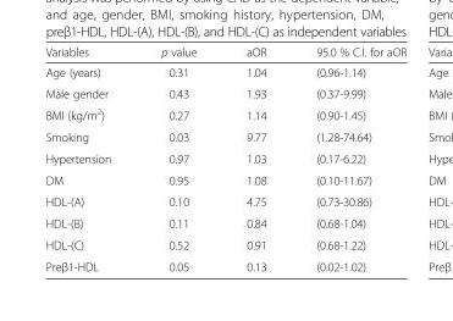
<table><thead><tr><td>Variables</td><td>p value</td><td>aOR</td><td>95.0 % C.I. for aOR</td></tr></thead><tbody><tr><td>Age (years)</td><td>0.31</td><td>1.04</td><td>(0.96-1.14)</td></tr><tr><td>Male gender</td><td>0.43</td><td>1.93</td><td>(0.37-9.99)</td></tr><tr><td>BMI (kg/m<sup>2</sup>)</td><td>0.27</td><td>1.14</td><td>(0.90-1.45)</td></tr><tr><td>Smoking</td><td>0.03</td><td>9.77</td><td>(1.28-74.64)</td></tr><tr><td>Hypertension</td><td>0.97</td><td>1.03</td><td>(0.17-6.22)</td></tr><tr><td>DM</td><td>0.95</td><td>1.08</td><td>(0.10-11.67)</td></tr><tr><td>HDL-(A)</td><td>0.10</td><td>4.75</td><td>(0.73-30.86)</td></tr><tr><td>HDL-(B)</td><td>0.11</td><td>0.84</td><td>(0.68-1.04)</td></tr><tr><td>HDL-(C)</td><td>0.52</td><td>0.91</td><td>(0.68-1.22)</td></tr><tr><td>Preβ1-HDL</td><td>0.05</td><td>0.13</td><td>(0.02-1.02)</td></tr></tbody></table>